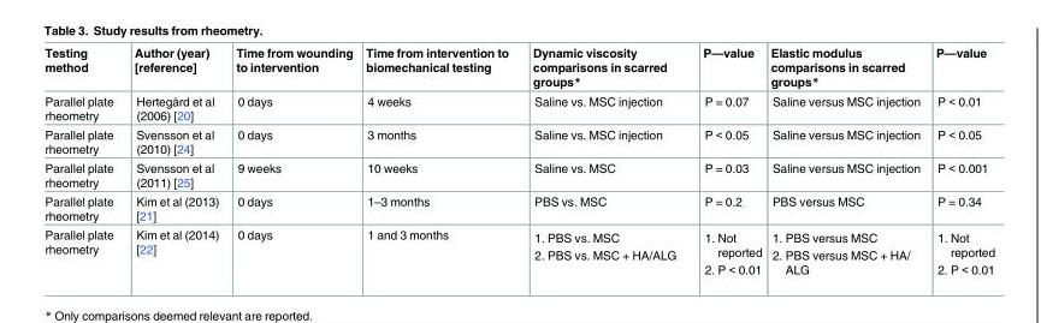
<table><thead><tr><td>Testing method</td><td>Author (year) [reference]</td><td>Time from wounding to intervention</td><td>Time from intervention to biomechanical testing</td><td>Dynamic viscosity comparisons in scarred groups*</td><td>P—value</td><td>Elastic modulus comparisons in scarred groups*</td><td>P—value</td></tr></thead><tbody><tr><td>Parallel plate rheometry</td><td>Hertegård et al (2006) [20]</td><td>0 days</td><td>4 weeks</td><td>Saline vs. MSC injection</td><td>P = 0.07</td><td>Saline versus MSC injection</td><td>P &lt; 0.01</td></tr><tr><td>Parallel plate rheometry</td><td>Svensson et al (2010) [24]</td><td>0 days</td><td>3 months</td><td>Saline vs. MSC injection</td><td>P &lt; 0.05</td><td>Saline versus MSC injection</td><td>P &lt; 0.05</td></tr><tr><td>Parallel plate rheometry</td><td>Svensson et al (2011) [25]</td><td>9 weeks</td><td>10 weeks</td><td>Saline vs. MSC</td><td>P = 0.03</td><td>Saline versus MSC injection</td><td>P &lt; 0.001</td></tr><tr><td>Parallel plate rheometry</td><td>Kim et al (2013) [21]</td><td>0 days</td><td>1–3 months</td><td>PBS vs. MSC</td><td>P = 0.2</td><td>PBS versus MSC</td><td>P = 0.34</td></tr><tr><td>Parallel plate rheometry</td><td>Kim et al (2014) [22]</td><td>0 days</td><td>1 and 3 months</td><td>1. PBS vs. MSC 2. PBS vs. MSC + HA/ALG</td><td>1. Not reported 2. P &lt; 0.01</td><td>1. PBS versus MSC 2. PBS versus MSC + HA/ ALG</td><td>1. Not reported 2. P &lt; 0.01</td></tr></tbody></table>